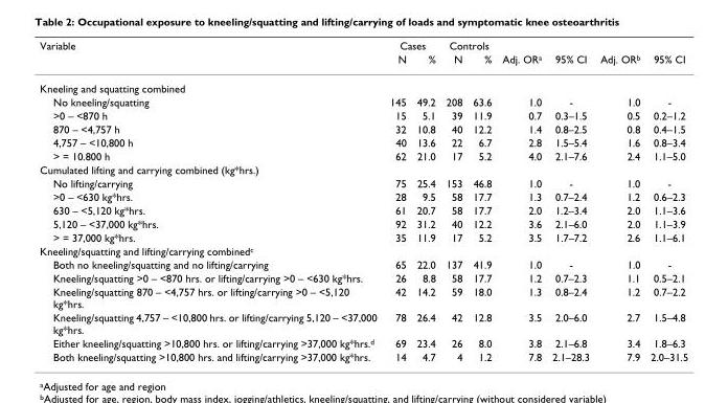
<table><thead><tr><td rowspan="2">Variable</td><td colspan="2">Cases</td><td colspan="2">Controls</td><td rowspan="2">Adj. OR<sup>a</sup></td><td rowspan="2">95% CI</td><td rowspan="2">Adj. OR<sup>b</sup></td><td rowspan="2">95% CI</td></tr><tr><td>N</td><td>%</td><td>N</td><td>%</td></tr></thead><tbody><tr><td colspan="9">Kneeling and squatting combined</td></tr><tr><td>No kneeling/squatting</td><td>145</td><td>49.2</td><td>208</td><td>63.6</td><td>1.0</td><td>-</td><td>1.0</td><td>-</td></tr><tr><td>&gt;0 – &lt;870 h</td><td>15</td><td>5.1</td><td>39</td><td>11.9</td><td>0.7</td><td>0.3–1.5</td><td>0.5</td><td>0.2–1.2</td></tr><tr><td>870 – &lt;4,757 h</td><td>32</td><td>10.8</td><td>40</td><td>12.2</td><td>1.4</td><td>0.8–2.5</td><td>0.8</td><td>0.4–1.5</td></tr><tr><td>4,757 – &lt;10,800 h</td><td>40</td><td>13.6</td><td>22</td><td>6.7</td><td>2.8</td><td>1.5–5.4</td><td>1.6</td><td>0.8–3.4</td></tr><tr><td>&gt; = 10.800 h</td><td>62</td><td>21.0</td><td>17</td><td>5.2</td><td>4.0</td><td>2.1–7.6</td><td>2.4</td><td>1.1–5.0</td></tr><tr><td colspan="9">Cumulated lifting and carrying combined (kg*hrs.)</td></tr><tr><td>No lifting/carrying</td><td>75</td><td>25.4</td><td>153</td><td>46.8</td><td>1.0</td><td>-</td><td>1.0</td><td>-</td></tr><tr><td>&gt;0 – &lt;630 kg*hrs.</td><td>28</td><td>9.5</td><td>58</td><td>17.7</td><td>1.3</td><td>0.7–2.4</td><td>1.2</td><td>0.6–2.3</td></tr><tr><td>630 – &lt;5,120 kg*hrs.</td><td>61</td><td>20.7</td><td>58</td><td>17.7</td><td>2.0</td><td>1.2–3.4</td><td>2.0</td><td>1.1–3.6</td></tr><tr><td>5,120 – &lt;37,000 kg*hrs.</td><td>92</td><td>31.2</td><td>40</td><td>12.2</td><td>3.6</td><td>2.1–6.0</td><td>2.0</td><td>1.1–3.9</td></tr><tr><td>&gt; = 37,000 kg*hrs.</td><td>35</td><td>11.9</td><td>17</td><td>5.2</td><td>3.5</td><td>1.7–7.2</td><td>2.6</td><td>1.1–6.1</td></tr><tr><td colspan="9">Kneeling/squatting and lifting/carrying combined<sup>c</sup></td></tr><tr><td>Both no kneeling/squatting and no lifting/carrying</td><td>65</td><td>22.0</td><td>137</td><td>41.9</td><td>1.0</td><td>-</td><td>1.0</td><td>-</td></tr><tr><td>Kneeling/squatting &gt;0 – &lt;870 hrs. or lifting/carrying &gt;0 – &lt;630 kg*hrs.</td><td>26</td><td>8.8</td><td>58</td><td>17.7</td><td>1.2</td><td>0.7–2.3</td><td>1.1</td><td>0.5–2.1</td></tr><tr><td>Kneeling/squatting 870 – &lt;4,757 hrs. or lifting/carrying &gt;0 – &lt;5,120 kg*hrs.</td><td>42</td><td>14.2</td><td>59</td><td>18.0</td><td>1.3</td><td>0.8–2.4</td><td>1.2</td><td>0.7–2.2</td></tr><tr><td>Kneeling/squatting 4,757 – &lt;10,800 hrs. or lifting/carrying 5,120 – &lt;37,000 kg*hrs.</td><td>78</td><td>26.4</td><td>42</td><td>12.8</td><td>3.5</td><td>2.0–6.0</td><td>2.7</td><td>1.5–4.8</td></tr><tr><td>Either kneeling/squatting &gt;10,800 hrs. or lifting/carrying &gt;37,000 kg*hrs.<sup>d</sup></td><td>69</td><td>23.4</td><td>26</td><td>8.0</td><td>3.8</td><td>2.1–6.8</td><td>3.4</td><td>1.8–6.3</td></tr><tr><td>Both kneeling/squatting &gt;10,800 hrs. and lifting/carrying &gt;37,000 kg*hrs.</td><td>14</td><td>4.7</td><td>4</td><td>1.2</td><td>7.8</td><td>2.1–28.3</td><td>7.9</td><td>2.0–31.5</td></tr></tbody></table>